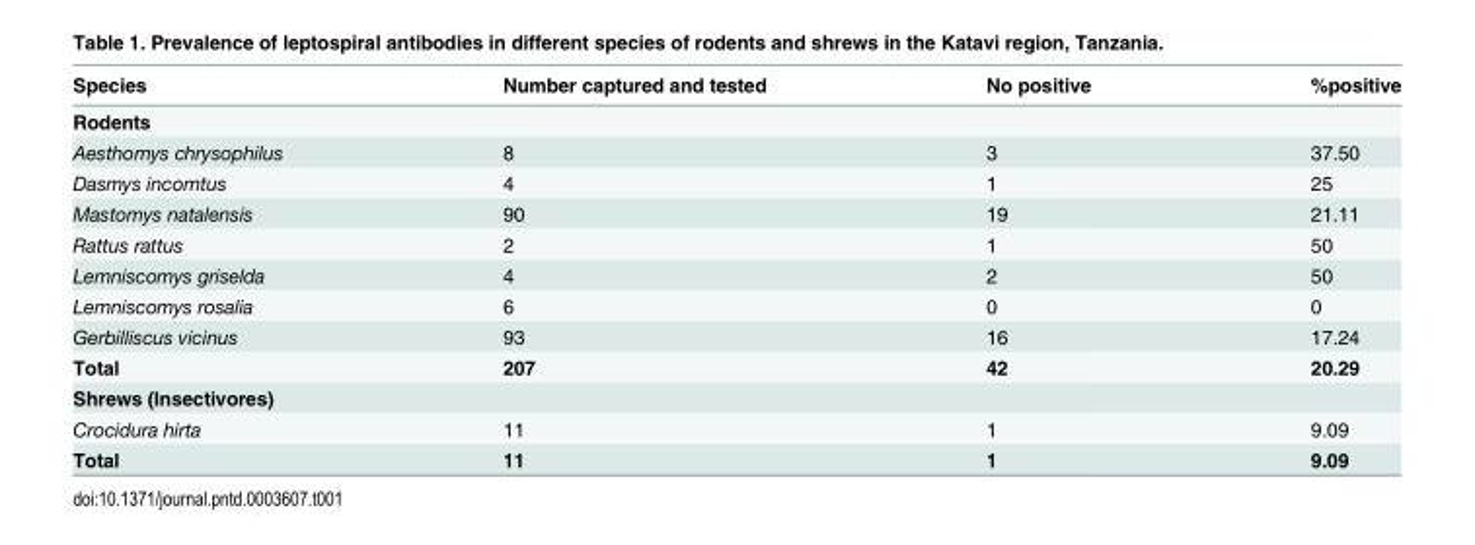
<table><thead><tr><td>Species</td><td>Number captured and tested</td><td>No positive</td><td>%positive</td></tr></thead><tbody><tr><td colspan="4">Rodents</td></tr><tr><td>Aesthomys chrysophilus</td><td>8</td><td>3</td><td>37.50</td></tr><tr><td>Dasmys incomtus</td><td>4</td><td>1</td><td>25</td></tr><tr><td>Mastomys natalensis</td><td>90</td><td>19</td><td>21.11</td></tr><tr><td>Rattus rattus</td><td>2</td><td>1</td><td>50</td></tr><tr><td>Lemniscomys griselda</td><td>4</td><td>2</td><td>50</td></tr><tr><td>Lemniscomys rosalia</td><td>6</td><td>0</td><td>0</td></tr><tr><td>Gerbilliscus vicinus</td><td>93</td><td>16</td><td>17.24</td></tr><tr><td>Total</td><td>207</td><td>42</td><td>20.29</td></tr><tr><td colspan="4">Shrews (Insectivores)</td></tr><tr><td>Crocidura hirta</td><td>11</td><td>1</td><td>9.09</td></tr><tr><td>Total</td><td>11</td><td>1</td><td>9.09</td></tr></tbody></table>